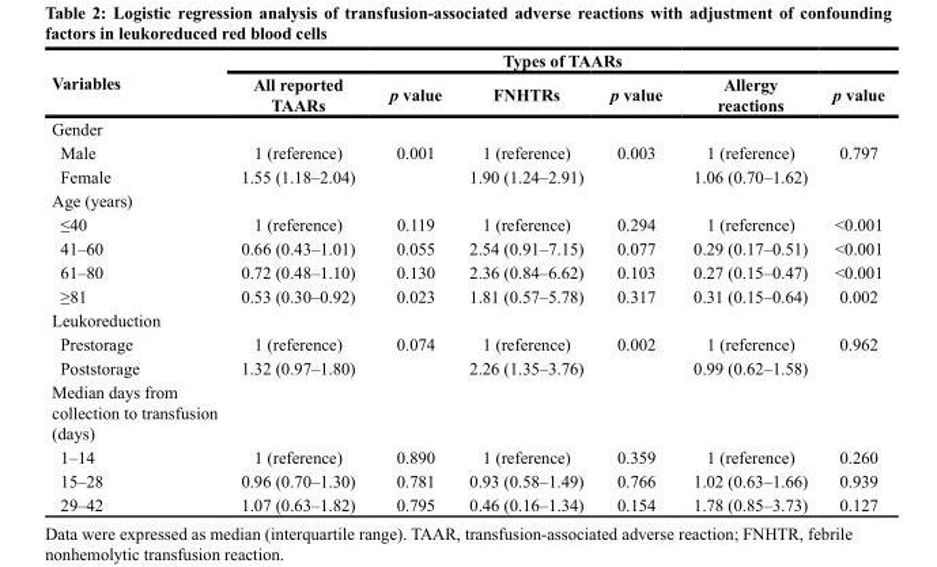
<table><thead><tr><td rowspan="2">Variables</td><td colspan="6">Types of TAARs</td></tr><tr><td>All reported TAARs</td><td>p value</td><td>FNHTRs</td><td>p value</td><td>Allergy reactions</td><td>p value</td></tr></thead><tbody><tr><td colspan="7">Gender</td></tr><tr><td>Male</td><td>1 (reference)</td><td>0.001</td><td>1 (reference)</td><td>0.003</td><td>1 (reference)</td><td>0.797</td></tr><tr><td>Female</td><td>1.55 (1.18–2.04)</td><td></td><td>1.90 (1.24–2.91)</td><td></td><td>1.06 (0.70–1.62)</td><td></td></tr><tr><td colspan="7">Age (years)</td></tr><tr><td>≤40</td><td>1 (reference)</td><td>0.119</td><td>1 (reference)</td><td>0.294</td><td>1 (reference)</td><td>&lt;0.001</td></tr><tr><td>41–60</td><td>0.66 (0.43–1.01)</td><td>0.055</td><td>2.54 (0.91–7.15)</td><td>0.077</td><td>0.29 (0.17–0.51)</td><td>&lt;0.001</td></tr><tr><td>61–80</td><td>0.72 (0.48–1.10)</td><td>0.130</td><td>2.36 (0.84–6.62)</td><td>0.103</td><td>0.27 (0.15–0.47)</td><td>&lt;0.001</td></tr><tr><td>≥81</td><td>0.53 (0.30–0.92)</td><td>0.023</td><td>1.81 (0.57–5.78)</td><td>0.317</td><td>0.31 (0.15–0.64)</td><td>0.002</td></tr><tr><td colspan="7">Leukoreduction</td></tr><tr><td>Prestorage</td><td>1 (reference)</td><td>0.074</td><td>1 (reference)</td><td>0.002</td><td>1 (reference)</td><td>0.962</td></tr><tr><td>Poststorage</td><td>1.32 (0.97–1.80)</td><td></td><td>2.26 (1.35–3.76)</td><td></td><td>0.99 (0.62–1.58)</td><td></td></tr><tr><td colspan="7">Median days from collection to transfusion (days)</td></tr><tr><td>1–14</td><td>1 (reference)</td><td>0.890</td><td>1 (reference)</td><td>0.359</td><td>1 (reference)</td><td>0.260</td></tr><tr><td>15–28</td><td>0.96 (0.70–1.30)</td><td>0.781</td><td>0.93 (0.58–1.49)</td><td>0.766</td><td>1.02 (0.63–1.66)</td><td>0.939</td></tr><tr><td>29–42</td><td>1.07 (0.63–1.82)</td><td>0.795</td><td>0.46 (0.16–1.34)</td><td>0.154</td><td>1.78 (0.85–3.73)</td><td>0.127</td></tr></tbody></table>